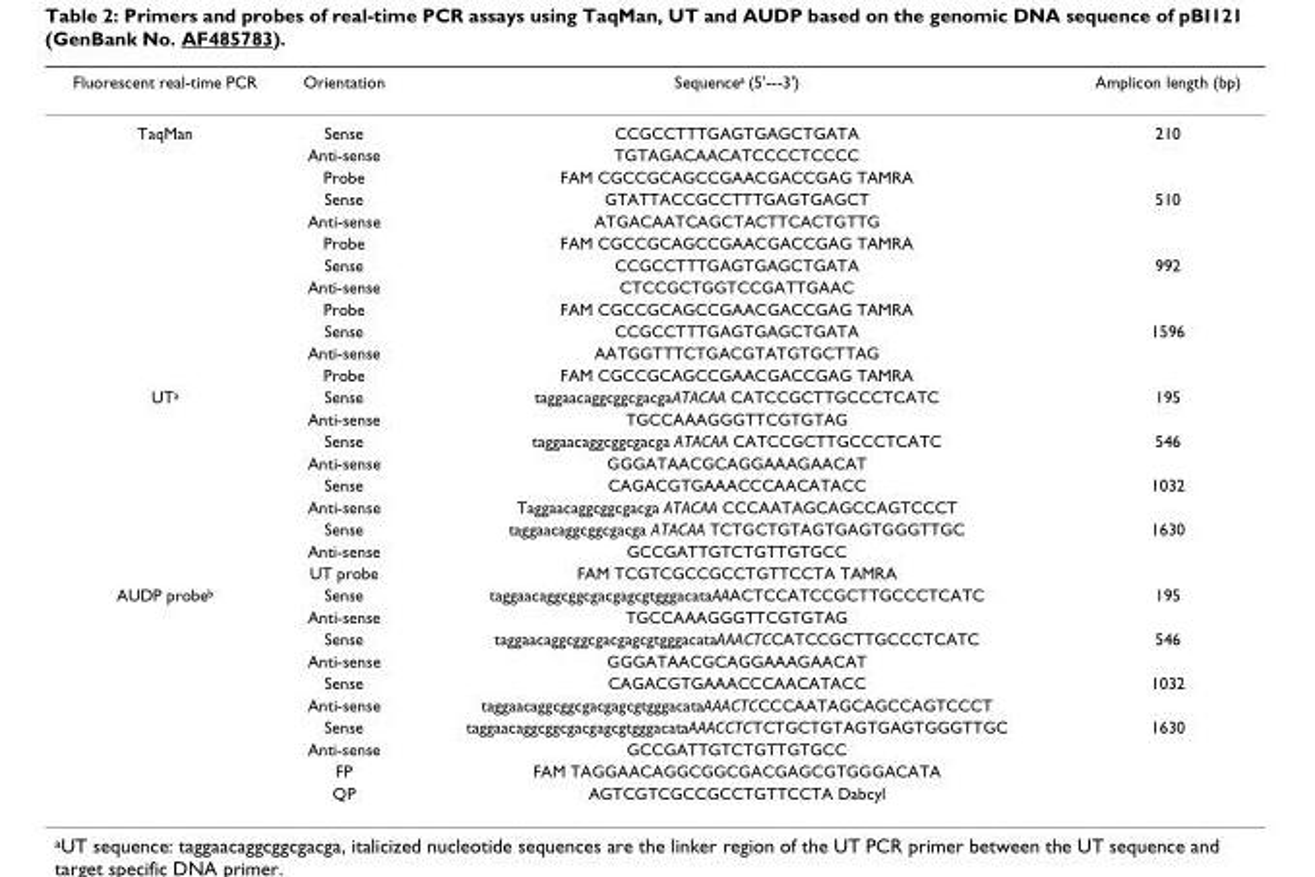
<table><thead><tr><td>Fluorescent real-time PCR</td><td>Orientation</td><td>Sequence<sup>a</sup> (5&#x27;---3&#x27;)</td><td>Amplicon length (bp)</td></tr></thead><tbody><tr><td rowspan="12">TaqMan</td><td>Sense</td><td>CCGCCTTTGAGTGAGCTGATA</td><td>210</td></tr><tr><td>Anti-sense</td><td>TGTAGACAACATCCCCTCCCC</td><td></td></tr><tr><td>Probe</td><td>FAM CGCCGCAGCCGAACGACCGAG TAMRA</td><td></td></tr><tr><td>Sense</td><td>GTATTACCGCCTTTGAGTGAGCT</td><td>510</td></tr><tr><td>Anti-sense</td><td>ATGACAATCAGCTACTTCACTGTTG</td><td></td></tr><tr><td>Probe</td><td>FAM CGCCGCAGCCGAACGACCGAG TAMRA</td><td></td></tr><tr><td>Sense</td><td>CCGCCTTTGAGTGAGCTGATA</td><td>992</td></tr><tr><td>Anti-sense</td><td>CTCCGCTGGTCCGATTGAAC</td><td></td></tr><tr><td>Probe</td><td>FAM CGCCGCAGCCGAACGACCGAG TAMRA</td><td></td></tr><tr><td>Sense</td><td>CCGCCTTTGAGTGAGCTGATA</td><td>1596</td></tr><tr><td>Anti-sense</td><td>AATGGTTTCTGACGTATGTGCTTAG</td><td></td></tr><tr><td>Probe</td><td>FAM CGCCGCAGCCGAACGACCGAG TAMRA</td><td></td></tr><tr><td rowspan="9">UT<sup>a</sup></td><td>Sense</td><td>taggaacaggcggcgacgaATACAA CATCCGCTTGCCCTCATC</td><td>195</td></tr><tr><td>Anti-sense</td><td>TGCCAAAGGGTTCGTGTAG</td><td></td></tr><tr><td>Sense</td><td>taggaacaggcggcgacga ATACAA CATCCGCTTGCCCTCATC</td><td>546</td></tr><tr><td>Anti-sense</td><td>GGGATAACGCAGGAAAGAACAT</td><td></td></tr><tr><td>Sense</td><td>CAGACGTGAAACCCAACATACC</td><td>1032</td></tr><tr><td>Anti-sense</td><td>Taggaacaggcggcgacga ATACAA CCCAATAGCAGCCAGTCCCT</td><td></td></tr><tr><td>Sense</td><td>taggaacaggcggcgacga ATACAA TCTGCTGTAGTGAGTGGGTTGC</td><td>1630</td></tr><tr><td>Anti-sense</td><td>GCCGATTGTCTGTTGTGCC</td><td></td></tr><tr><td>UT probe</td><td>FAM TCGTCGCCGCCTGTTCCTA TAMRA</td><td></td></tr><tr><td rowspan="10">AUDP probe<sup>b</sup></td><td>Sense</td><td>taggaacaggcggcgacgagcgtgggacataAAACTCCATCCGCTTGCCCTCATC</td><td>195</td></tr><tr><td>Anti-sense</td><td>TGCCAAAGGGTTCGTGTAG</td><td></td></tr><tr><td>Sense</td><td>taggaacaggcggcgacgagcgtgggacataAAACTCCATCCGCTTGCCCTCATC</td><td>546</td></tr><tr><td>Anti-sense</td><td>GGGATAACGCAGGAAAGAACAT</td><td></td></tr><tr><td>Sense</td><td>CAGACGTGAAACCCAACATACC</td><td>1032</td></tr><tr><td>Anti-sense</td><td>taggaacaggcggcgacgagcgtgggacataAAACTCCCCAATAGCAGCCAGTCCCT</td><td></td></tr><tr><td>Sense</td><td>taggaacaggcggcgacgagcgtgggacataAAACCTCTCTGCTGTAGTGAGTGGGTTGC</td><td>1630</td></tr><tr><td>Anti-sense</td><td>GCCGATTGTCTGTTGTGCC</td><td></td></tr><tr><td>FP</td><td>FAM TAGGAACAGGCGGCGACGAGCGTGGGACATA</td><td></td></tr><tr><td>QP</td><td>AGTCGTCGCCGCCTGTTCCTA Dabcyl</td><td></td></tr></tbody></table>